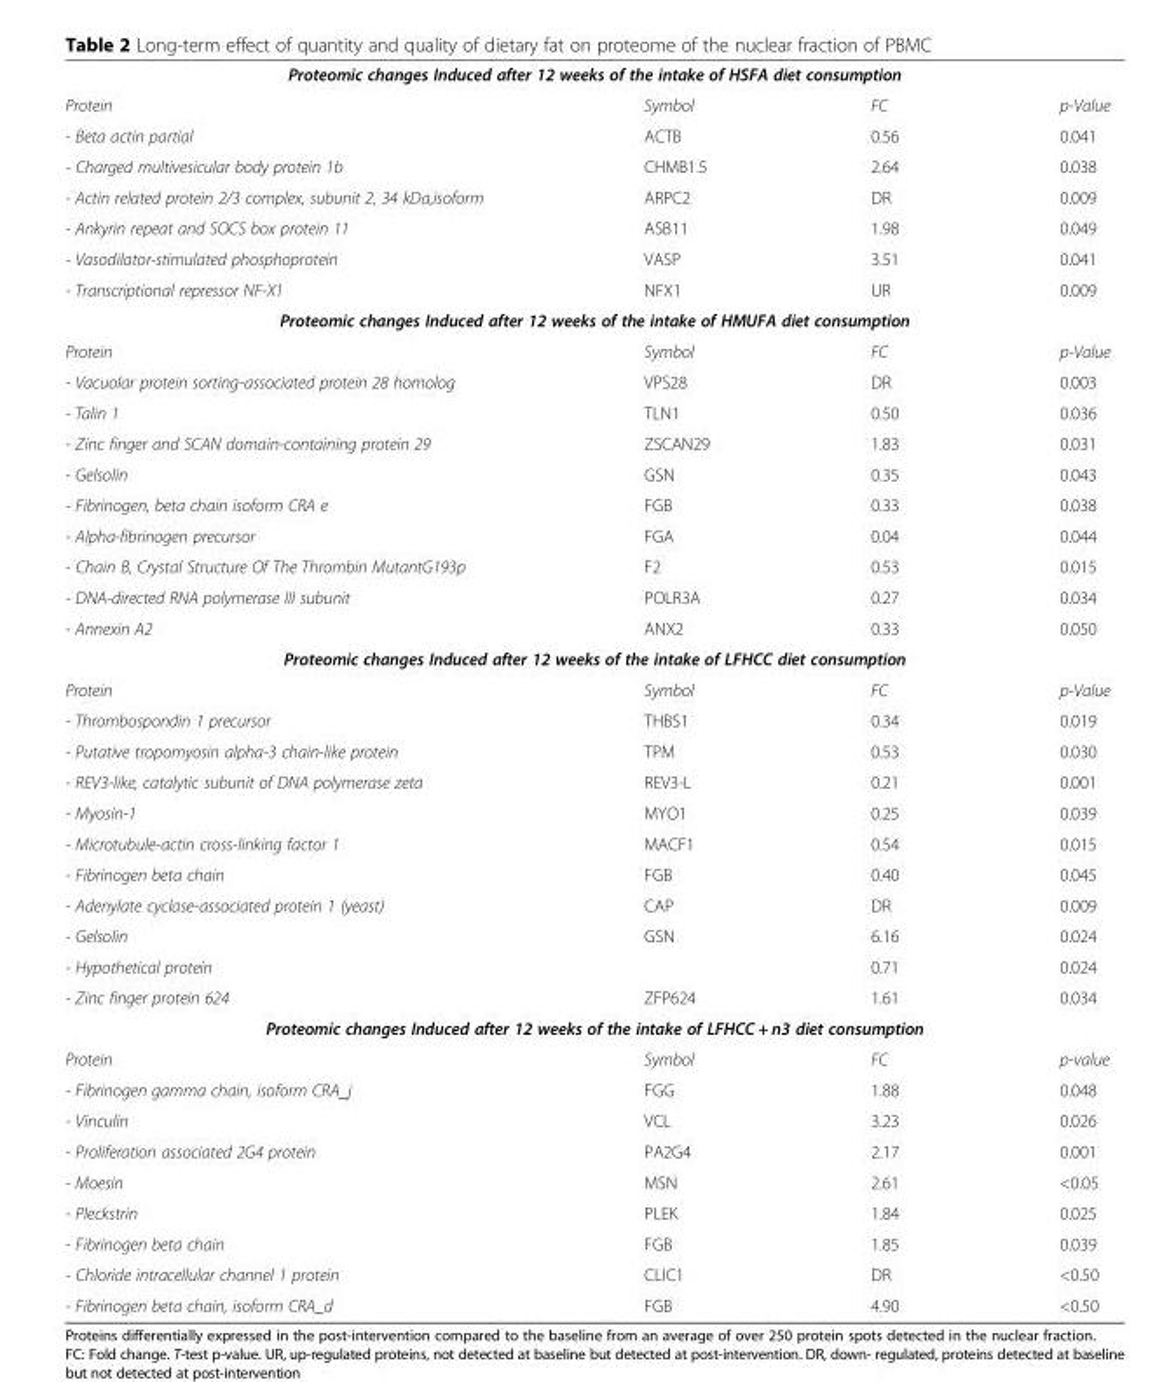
<table><tbody><tr><td colspan="4">Proteomic changes Induced after 12 weeks of the intake of HSFA diet consumption</td></tr><tr><td>Protein</td><td>Symbol</td><td>FC</td><td>p-Value</td></tr><tr><td>- Beta actin partial</td><td>ACTB</td><td>0.56</td><td>0.041</td></tr><tr><td>- Charged multivesicular body protein 1b</td><td>CHMB1.5</td><td>2.64</td><td>0.038</td></tr><tr><td>- Actin related protein 2/3 complex, subunit 2, 34 kDa,isoform</td><td>ARPC2</td><td>DR</td><td>0.009</td></tr><tr><td>- Ankyrin repeat and SOCS box protein 11</td><td>ASB11</td><td>1.98</td><td>0.049</td></tr><tr><td>- Vasodilator-stimulated phosphoprotein</td><td>VASP</td><td>3.51</td><td>0.041</td></tr><tr><td>- Transcriptional repressor NF-X1</td><td>NFX1</td><td>UR</td><td>0.009</td></tr><tr><td colspan="4">Proteomic changes Induced after 12 weeks of the intake of HMUFA diet consumption</td></tr><tr><td>Protein</td><td>Symbol</td><td>FC</td><td>p-Value</td></tr><tr><td>- Vacuolar protein sorting-associated protein 28 homolog</td><td>VPS28</td><td>DR</td><td>0.003</td></tr><tr><td>- Talin 1</td><td>TLN1</td><td>0.50</td><td>0.036</td></tr><tr><td>- Zinc finger and SCAN domain-containing protein 29</td><td>ZSCAN29</td><td>1.83</td><td>0.031</td></tr><tr><td>- Gelsolin</td><td>GSN</td><td>0.35</td><td>0.043</td></tr><tr><td>- Fibrinogen, beta chain isoform CRA e</td><td>FGB</td><td>0.33</td><td>0.038</td></tr><tr><td>- Alpha-fibrinogen precursor</td><td>FGA</td><td>0.04</td><td>0.044</td></tr><tr><td>- Chain B, Crystal Structure Of The Thrombin MutantG193p</td><td>F2</td><td>0.53</td><td>0.015</td></tr><tr><td>- DNA-directed RNA polymerase III subunit</td><td>POLR3A</td><td>0.27</td><td>0.034</td></tr><tr><td>- Annexin A2</td><td>ANX2</td><td>0.33</td><td>0.050</td></tr><tr><td colspan="4">Proteomic changes Induced after 12 weeks of the intake of LFHCC diet consumption</td></tr><tr><td>Protein</td><td>Symbol</td><td>FC</td><td>p-Value</td></tr><tr><td>- Thrombospondin 1 precursor</td><td>THBS1</td><td>0.34</td><td>0.019</td></tr><tr><td>- Putative tropomyosin alpha-3 chain-like protein</td><td>TPM</td><td>0.53</td><td>0.030</td></tr><tr><td>- REV3-like, catalytic subunit of DNA polymerase zeta</td><td>REV3-L</td><td>0.21</td><td>0.001</td></tr><tr><td>- Myosin-1</td><td>MYO1</td><td>0.25</td><td>0.039</td></tr><tr><td>- Microtubule-actin cross-linking factor 1</td><td>MACF1</td><td>0.54</td><td>0.015</td></tr><tr><td>- Fibrinogen beta chain</td><td>FGB</td><td>0.40</td><td>0.045</td></tr><tr><td>- Adenylate cyclase-associated protein 1 (yeast)</td><td>CAP</td><td>DR</td><td>0.009</td></tr><tr><td>- Gelsolin</td><td>GSN</td><td>6.16</td><td>0.024</td></tr><tr><td>- Hypothetical protein</td><td></td><td>0.71</td><td>0.024</td></tr><tr><td>- Zinc finger protein 624</td><td>ZFP624</td><td>1.61</td><td>0.034</td></tr><tr><td colspan="4">Proteomic changes Induced after 12 weeks of the intake of LFHCC + n3 diet consumption</td></tr><tr><td>Protein</td><td>Symbol</td><td>FC</td><td>p-value</td></tr><tr><td>- Fibrinogen gamma chain, isoform CRA_j</td><td>FGG</td><td>1.88</td><td>0.048</td></tr><tr><td>- Vinculin</td><td>VCL</td><td>3.23</td><td>0.026</td></tr><tr><td>- Proliferation associated 2G4 protein</td><td>PA2G4</td><td>2.17</td><td>0.001</td></tr><tr><td>- Moesin</td><td>MSN</td><td>2.61</td><td>&lt;0.05</td></tr><tr><td>- Pleckstrin</td><td>PLEK</td><td>1.84</td><td>0.025</td></tr><tr><td>- Fibrinogen beta chain</td><td>FGB</td><td>1.85</td><td>0.039</td></tr><tr><td>- Chloride intracellular channel 1 protein</td><td>CLIC1</td><td>DR</td><td>&lt;0.50</td></tr><tr><td>- Fibrinogen beta chain, isoform CRA_d</td><td>FGB</td><td>4.90</td><td>&lt;0.50</td></tr></tbody></table>